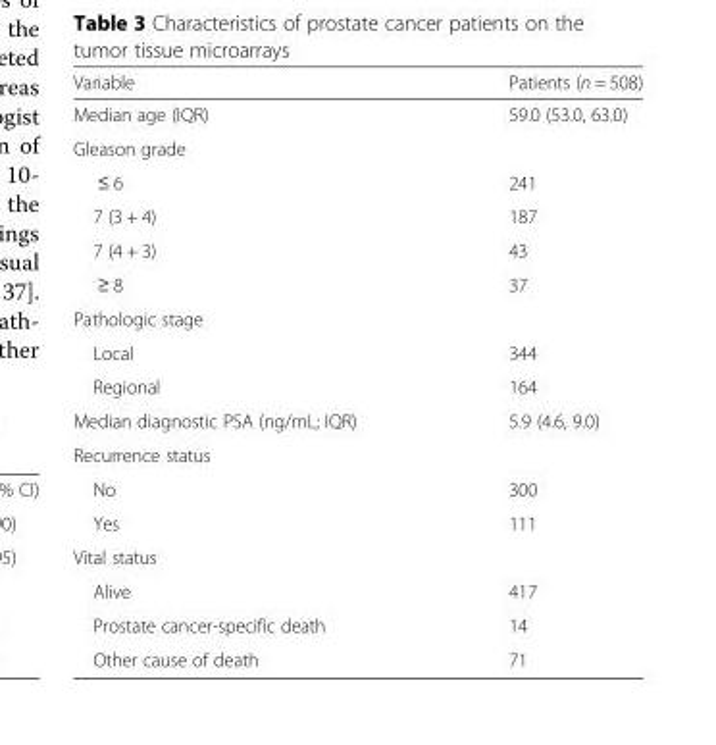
<table><thead><tr><td>Variable</td><td>Patients (n = 508)</td></tr></thead><tbody><tr><td>Median age (IQR)</td><td>59.0 (53.0, 63.0)</td></tr><tr><td colspan="2">Gleason grade</td></tr><tr><td>≤ 6</td><td>241</td></tr><tr><td>7 (3 + 4)</td><td>187</td></tr><tr><td>7 (4 + 3)</td><td>43</td></tr><tr><td>≥ 8</td><td>37</td></tr><tr><td colspan="2">Pathologic stage</td></tr><tr><td>Local</td><td>344</td></tr><tr><td>Regional</td><td>164</td></tr><tr><td>Median diagnostic PSA (ng/mL; IQR)</td><td>5.9 (4.6, 9.0)</td></tr><tr><td colspan="2">Recurrence status</td></tr><tr><td>No</td><td>300</td></tr><tr><td>Yes</td><td>111</td></tr><tr><td colspan="2">Vital status</td></tr><tr><td>Alive</td><td>417</td></tr><tr><td>Prostate cancer-specific death</td><td>14</td></tr><tr><td>Other cause of death</td><td>71</td></tr></tbody></table>